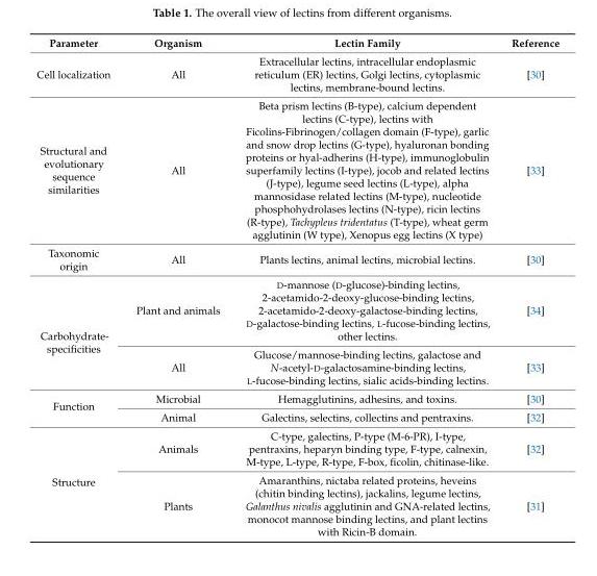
<table><thead><tr><td>Parameter</td><td>Organism</td><td>Lectin Family</td><td>Reference</td></tr></thead><tbody><tr><td>Cell localization</td><td>All</td><td>Extracellular lectins, intracellular endoplasmic reticulum (ER) lectins, Golgi lectins, cytoplasmic lectins, membrane-bound lectins.</td><td>[30]</td></tr><tr><td>Structural and evolutionary sequence similarities</td><td>All</td><td>Beta prism lectins (B-type), calcium dependent lectins (C-type), lectins with Ficolins-Fibrinogen/collagen domain (F-type), garlic and snow drop lectins (G-type), hyaluronan bonding proteins or hyal-adherins (H-type), immunoglobulin superfamily lectins (I-type), jocob and related lectins (J-type), legume seed lectins (L-type), alpha mannosidase related lectins (M-type), nucleotide phosphohydrolases lectins (N-type), ricin lectins (R-type), Tachypleus tridentatus (T-type), wheat germ agglutinin (W type), Xenopus egg lectins (X type)</td><td>[33]</td></tr><tr><td>Taxonomic origin</td><td>All</td><td>Plants lectins, animal lectins, microbial lectins.</td><td>[30]</td></tr><tr><td rowspan="2">Carbohydrate- specificities</td><td>Plant and animals</td><td>D-mannose (D-glucose)-binding lectins, 2-acetamido-2-deoxy-glucose-binding lectins, 2-acetamido-2-deoxy-galactose-binding lectins, D-galactose-binding lectins, L-fucose-binding lectins, other lectins.</td><td>[34]</td></tr><tr><td>All</td><td>Glucose/mannose-binding lectins, galactose and N-acetyl-D-galactosamine-binding lectins, L-fucose-binding lectins, sialic acids-binding lectins.</td><td>[33]</td></tr><tr><td rowspan="2">Function</td><td>Microbial</td><td>Hemagglutinins, adhesins, and toxins.</td><td>[30]</td></tr><tr><td>Animal</td><td>Galectins, selectins, collectins and pentraxins.</td><td>[32]</td></tr><tr><td rowspan="2">Structure</td><td>Animals</td><td>C-type, galectins, P-type (M-6-PR), I-type, pentraxins, heparyn binding type, F-type, calnexin, M-type, L-type, R-type, F-box, ficolin, chitinase-like.</td><td>[32]</td></tr><tr><td>Plants</td><td>Amaranthins, nictaba related proteins, heveins (chitin binding lectins), jackalins, legume lectins, Galanthus nivalis agglutinin and GNA-related lectins, monocot mannose binding lectins, and plant lectins with Ricin-B domain.</td><td>[31]</td></tr></tbody></table>